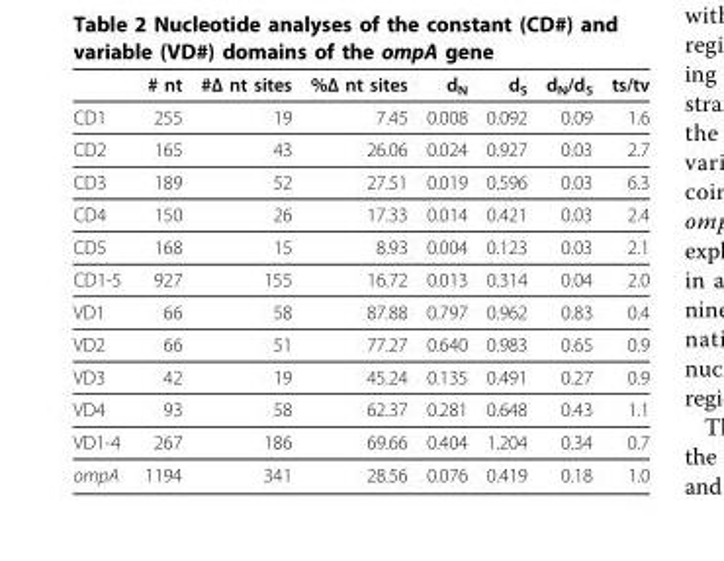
<table><thead><tr><td></td><td># nt</td><td>#Δ nt sites</td><td>%Δ nt sites</td><td>d<sub>N</sub></td><td>d<sub>S</sub></td><td>d<sub>N</sub>/d<sub>S</sub></td><td>ts/tv</td></tr></thead><tbody><tr><td>CD1</td><td>255</td><td>19</td><td>7.45</td><td>0.008</td><td>0.092</td><td>0.09</td><td>1.6</td></tr><tr><td>CD2</td><td>165</td><td>43</td><td>26.06</td><td>0.024</td><td>0.927</td><td>0.03</td><td>2.7</td></tr><tr><td>CD3</td><td>189</td><td>52</td><td>27.51</td><td>0.019</td><td>0.596</td><td>0.03</td><td>6.3</td></tr><tr><td>CD4</td><td>150</td><td>26</td><td>17.33</td><td>0.014</td><td>0.421</td><td>0.03</td><td>2.4</td></tr><tr><td>CD5</td><td>168</td><td>15</td><td>8.93</td><td>0.004</td><td>0.123</td><td>0.03</td><td>2.1</td></tr><tr><td>CD1-5</td><td>927</td><td>155</td><td>16.72</td><td>0.013</td><td>0.314</td><td>0.04</td><td>2.0</td></tr><tr><td>VD1</td><td>66</td><td>58</td><td>87.88</td><td>0.797</td><td>0.962</td><td>0.83</td><td>0.4</td></tr><tr><td>VD2</td><td>66</td><td>51</td><td>77.27</td><td>0.640</td><td>0.983</td><td>0.65</td><td>0.9</td></tr><tr><td>VD3</td><td>42</td><td>19</td><td>45.24</td><td>0.135</td><td>0.491</td><td>0.27</td><td>0.9</td></tr><tr><td>VD4</td><td>93</td><td>58</td><td>62.37</td><td>0.281</td><td>0.648</td><td>0.43</td><td>1.1</td></tr><tr><td>VD1-4</td><td>267</td><td>186</td><td>69.66</td><td>0.404</td><td>1.204</td><td>0.34</td><td>0.7</td></tr><tr><td>ompA</td><td>1194</td><td>341</td><td>28.56</td><td>0.076</td><td>0.419</td><td>0.18</td><td>1.0</td></tr></tbody></table>